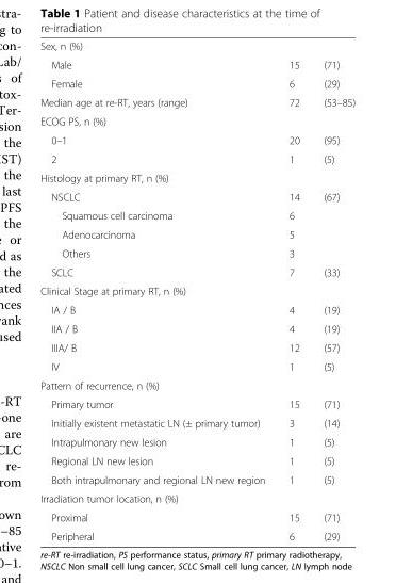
<table><tbody><tr><td colspan="3">Sex, n (%)</td></tr><tr><td>Male</td><td>15</td><td>(71)</td></tr><tr><td>Female</td><td>6</td><td>(29)</td></tr><tr><td>Median age at re-RT, years (range)</td><td>72</td><td>(53–85)</td></tr><tr><td colspan="3">ECOG PS, n (%)</td></tr><tr><td>0–1</td><td>20</td><td>(95)</td></tr><tr><td>2</td><td>1</td><td>(5)</td></tr><tr><td colspan="3">Histology at primary RT, n (%)</td></tr><tr><td>NSCLC</td><td>14</td><td>(67)</td></tr><tr><td>Squamous cell carcinoma</td><td>6</td><td></td></tr><tr><td>Adenocarcinoma</td><td>5</td><td></td></tr><tr><td>Others</td><td>3</td><td></td></tr><tr><td>SCLC</td><td>7</td><td>(33)</td></tr><tr><td colspan="3">Clinical Stage at primary RT, n (%)</td></tr><tr><td>IA / B</td><td>4</td><td>(19)</td></tr><tr><td>IIA / B</td><td>4</td><td>(19)</td></tr><tr><td>IIIA/ B</td><td>12</td><td>(57)</td></tr><tr><td>IV</td><td>1</td><td>(5)</td></tr><tr><td colspan="3">Pattern of recurrence, n (%)</td></tr><tr><td>Primary tumor</td><td>15</td><td>(71)</td></tr><tr><td>Initially existent metastatic LN (± primary tumor)</td><td>3</td><td>(14)</td></tr><tr><td>Intrapulmonary new lesion</td><td>1</td><td>(5)</td></tr><tr><td>Regional LN new lesion</td><td>1</td><td>(5)</td></tr><tr><td>Both intrapulmonary and regional LN new region</td><td>1</td><td>(5)</td></tr><tr><td colspan="3">Irradiation tumor location, n (%)</td></tr><tr><td>Proximal</td><td>15</td><td>(71)</td></tr><tr><td>Peripheral</td><td>6</td><td>(29)</td></tr></tbody></table>